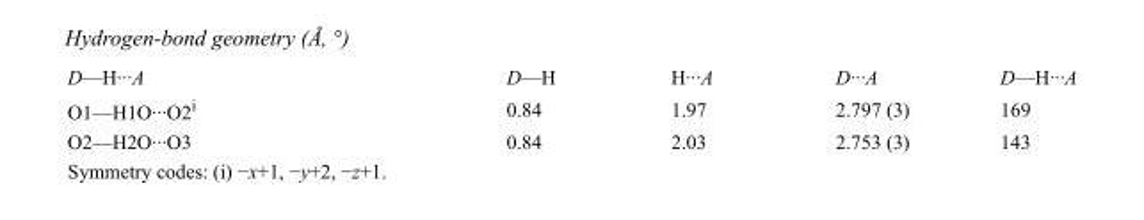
<table><tbody><tr><td>D—H···A</td><td>D—H</td><td>H···A</td><td>D···A</td><td>D—H···A</td></tr><tr><td>O1—H1O···O2<sup>i</sup></td><td>0.84</td><td>1.97</td><td>2.797 (3)</td><td>169</td></tr><tr><td>O2—H2O···O3</td><td>0.84</td><td>2.03</td><td>2.753 (3)</td><td>143</td></tr></tbody></table>